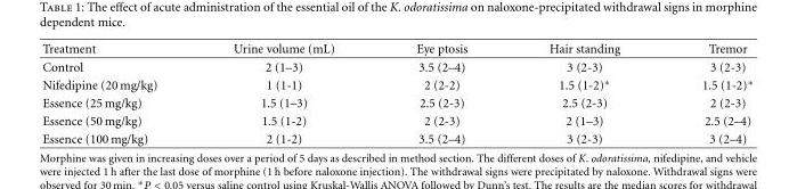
<table><thead><tr><td>Treatment</td><td>Urine volume (mL)</td><td>Eye ptosis</td><td>Hair standing</td><td>Tremor</td></tr></thead><tbody><tr><td>Control</td><td>2 (1–3)</td><td>3.5 (2–4)</td><td>3 (2-3)</td><td>3 (2-3)</td></tr><tr><td>Nifedipine (20 mg/kg)</td><td>1 (1-1)</td><td>2 (2-2)</td><td>1.5 (1-2)∗</td><td>1.5 (1-2)∗</td></tr><tr><td>Essence (25 mg/kg)</td><td>1.5 (1–3)</td><td>2.5 (2-3)</td><td>2.5 (2-3)</td><td>2 (2-3)</td></tr><tr><td>Essence (50 mg/kg)</td><td>1.5 (1-2)</td><td>2 (2-3)</td><td>2 (1–3)</td><td>2.5 (2–4)</td></tr><tr><td>Essence (100 mg/kg)</td><td>2 (1-2)</td><td>3.5 (2–4)</td><td>3 (2-3)</td><td>3 (2–4)</td></tr></tbody></table>